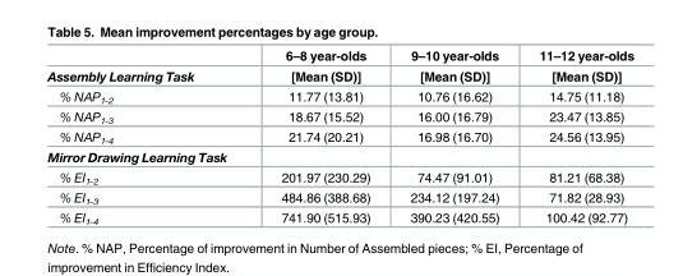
<table><thead><tr><td></td><td>6–8 year-olds</td><td>9–10 year-olds</td><td>11–12 year-olds</td></tr></thead><tbody><tr><td>Assembly Learning Task</td><td>[Mean (SD)]</td><td>[Mean (SD)]</td><td>[Mean (SD)]</td></tr><tr><td>% NAP<sub>1-2</sub></td><td>11.77 (13.81)</td><td>10.76 (16.62)</td><td>14.75 (11.18)</td></tr><tr><td>% NAP<sub>1-3</sub></td><td>18.67 (15.52)</td><td>16.00 (16.79)</td><td>23.47 (13.85)</td></tr><tr><td>% NAP<sub>1-4</sub></td><td>21.74 (20.21)</td><td>16.98 (16.70)</td><td>24.56 (13.95)</td></tr><tr><td colspan="4">Mirror Drawing Learning Task</td></tr><tr><td>% EI<sub>1-2</sub></td><td>201.97 (230.29)</td><td>74.47 (91.01)</td><td>81.21 (68.38)</td></tr><tr><td>% EI<sub>1-3</sub></td><td>484.86 (388.68)</td><td>234.12 (197.24)</td><td>71.82 (28.93)</td></tr><tr><td>% EI<sub>1-4</sub></td><td>741.90 (515.93)</td><td>390.23 (420.55)</td><td>100.42 (92.77)</td></tr></tbody></table>